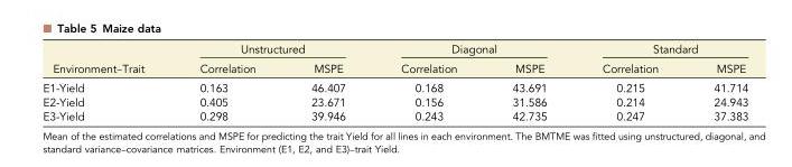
<table><thead><tr><td rowspan="2">Environment–Trait</td><td colspan="2">Unstructured</td><td colspan="2">Diagonal</td><td colspan="2">Standard</td></tr><tr><td>Correlation</td><td>MSPE</td><td>Correlation</td><td>MSPE</td><td>Correlation</td><td>MSPE</td></tr></thead><tbody><tr><td>E1-Yield</td><td>0.163</td><td>46.407</td><td>0.168</td><td>43.691</td><td>0.215</td><td>41.714</td></tr><tr><td>E2-Yield</td><td>0.405</td><td>23.671</td><td>0.156</td><td>31.586</td><td>0.214</td><td>24.943</td></tr><tr><td>E3-Yield</td><td>0.298</td><td>39.946</td><td>0.243</td><td>42.735</td><td>0.247</td><td>37.383</td></tr></tbody></table>